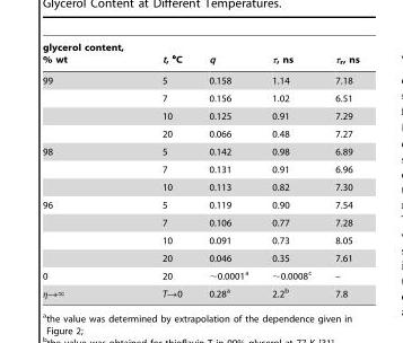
<table><thead><tr><td>glycerol content, % wt</td><td>t, °C</td><td>q</td><td>τ, ns</td><td>τ<sub>r</sub>, ns</td></tr></thead><tbody><tr><td rowspan="4">99</td><td>5</td><td>0.158</td><td>1.14</td><td>7.18</td></tr><tr><td>7</td><td>0.156</td><td>1.02</td><td>6.51</td></tr><tr><td>10</td><td>0.125</td><td>0.91</td><td>7.29</td></tr><tr><td>20</td><td>0.066</td><td>0.48</td><td>7.27</td></tr><tr><td rowspan="3">98</td><td>5</td><td>0.142</td><td>0.98</td><td>6.89</td></tr><tr><td>7</td><td>0.131</td><td>0.91</td><td>6.96</td></tr><tr><td>10</td><td>0.113</td><td>0.82</td><td>7.30</td></tr><tr><td rowspan="4">96</td><td>5</td><td>0.119</td><td>0.90</td><td>7.54</td></tr><tr><td>7</td><td>0.106</td><td>0.77</td><td>7.28</td></tr><tr><td>10</td><td>0.091</td><td>0.73</td><td>8.05</td></tr><tr><td>20</td><td>0.046</td><td>0.35</td><td>7.61</td></tr><tr><td>0</td><td>20</td><td>∼0.0001<sup>a</sup></td><td>∼0.0008<sup>c</sup></td><td>–</td></tr><tr><td>gR‘</td><td>T→0</td><td>0.28<sup>a</sup></td><td>2.2<sup>b</sup></td><td>7.8</td></tr></tbody></table>